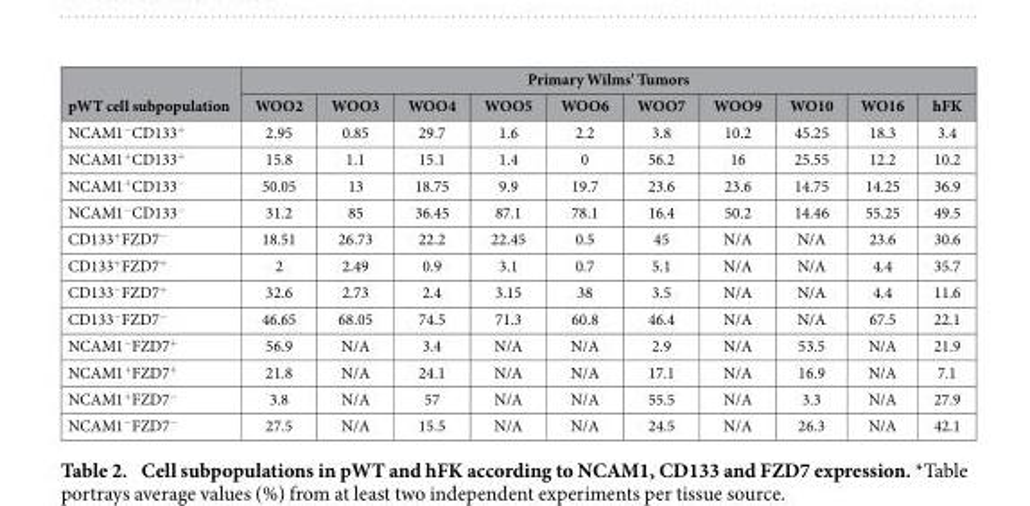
<table><thead><tr><td rowspan="2">pWT cell subpopulation</td><td colspan="10">Primary Wilms&#x27; Tumors</td></tr><tr><td>WOO2</td><td>WOO3</td><td>WOO4</td><td>WOO5</td><td>WOO6</td><td>WOO7</td><td>WOO9</td><td>WO10</td><td>WO16</td><td>hFK</td></tr></thead><tbody><tr><td>NCAM1<sup>−</sup>CD133<sup>+</sup></td><td>2.95</td><td>0.85</td><td>29.7</td><td>1.6</td><td>2.2</td><td>3.8</td><td>10.2</td><td>45.25</td><td>18.3</td><td>3.4</td></tr><tr><td>NCAM1<sup>+</sup>CD133<sup>+</sup></td><td>15.8</td><td>1.1</td><td>15.1</td><td>1.4</td><td>0</td><td>56.2</td><td>16</td><td>25.55</td><td>12.2</td><td>10.2</td></tr><tr><td>NCAM1<sup>+</sup>CD133<sup>−</sup></td><td>50.05</td><td>13</td><td>18.75</td><td>9.9</td><td>19.7</td><td>23.6</td><td>23.6</td><td>14.75</td><td>14.25</td><td>36.9</td></tr><tr><td>NCAM1<sup>−</sup>CD133<sup>−</sup></td><td>31.2</td><td>85</td><td>36.45</td><td>87.1</td><td>78.1</td><td>16.4</td><td>50.2</td><td>14.46</td><td>55.25</td><td>49.5</td></tr><tr><td>CD133<sup>+</sup>FZD7<sup>−</sup></td><td>18.51</td><td>26.73</td><td>22.2</td><td>22.45</td><td>0.5</td><td>45</td><td>N/A</td><td>N/A</td><td>23.6</td><td>30.6</td></tr><tr><td>CD133<sup>+</sup>FZD7<sup>+</sup></td><td>2</td><td>2.49</td><td>0.9</td><td>3.1</td><td>0.7</td><td>5.1</td><td>N/A</td><td>N/A</td><td>4.4</td><td>35.7</td></tr><tr><td>CD133<sup>−</sup>FZD7<sup>+</sup></td><td>32.6</td><td>2.73</td><td>2.4</td><td>3.15</td><td>38</td><td>3.5</td><td>N/A</td><td>N/A</td><td>4.4</td><td>11.6</td></tr><tr><td>CD133<sup>−</sup>FZD7<sup>−</sup></td><td>46.65</td><td>68.05</td><td>74.5</td><td>71.3</td><td>60.8</td><td>46.4</td><td>N/A</td><td>N/A</td><td>67.5</td><td>22.1</td></tr><tr><td>NCAM1<sup>−</sup>FZD7<sup>+</sup></td><td>56.9</td><td>N/A</td><td>3.4</td><td>N/A</td><td>N/A</td><td>2.9</td><td>N/A</td><td>53.5</td><td>N/A</td><td>21.9</td></tr><tr><td>NCAM1<sup>+</sup>FZD7<sup>+</sup></td><td>21.8</td><td>N/A</td><td>24.1</td><td>N/A</td><td>N/A</td><td>17.1</td><td>N/A</td><td>16.9</td><td>N/A</td><td>7.1</td></tr><tr><td>NCAM1<sup>+</sup>FZD7<sup>−</sup></td><td>3.8</td><td>N/A</td><td>57</td><td>N/A</td><td>N/A</td><td>55.5</td><td>N/A</td><td>3.3</td><td>N/A</td><td>27.9</td></tr><tr><td>NCAM1<sup>−</sup>FZD7<sup>−</sup></td><td>27.5</td><td>N/A</td><td>15.5</td><td>N/A</td><td>N/A</td><td>24.5</td><td>N/A</td><td>26.3</td><td>N/A</td><td>42.1</td></tr></tbody></table>